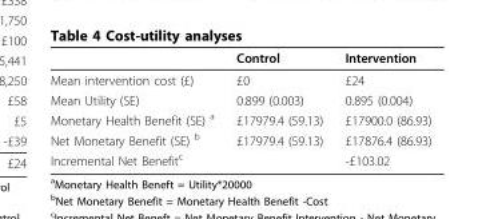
<table><thead><tr><td></td><td>Control</td><td>Intervention</td></tr></thead><tbody><tr><td>Mean intervention cost (£)</td><td>£0</td><td>£24</td></tr><tr><td>Mean Utility (SE)</td><td>0.899 (0.003)</td><td>0.895 (0.004)</td></tr><tr><td>Monetary Health Benefit (SE) <sup>a</sup></td><td>£17979.4 (59.13)</td><td>£17900.0 (86.93)</td></tr><tr><td>Net Monetary Benefit (SE) <sup>b</sup></td><td>£17979.4 (59.13)</td><td>£17876.4 (86.93)</td></tr><tr><td>Incremental Net Benefit<sup>c</sup></td><td></td><td>-£103.02</td></tr></tbody></table>